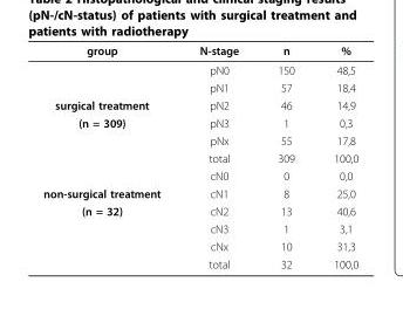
<table><thead><tr><td>group</td><td>N-stage</td><td>n</td><td>%</td></tr></thead><tbody><tr><td></td><td>pN0</td><td>150</td><td>48,5</td></tr><tr><td></td><td>pN1</td><td>57</td><td>18,4</td></tr><tr><td>surgical treatment</td><td>pN2</td><td>46</td><td>14,9</td></tr><tr><td rowspan="4">(n = 309)</td><td>pN3</td><td>1</td><td>0,3</td></tr><tr><td>pNx</td><td>55</td><td>17,8</td></tr><tr><td>total</td><td>309</td><td>100,0</td></tr><tr><td>cN0</td><td>0</td><td>0,0</td></tr><tr><td>non-surgical treatment</td><td>cN1</td><td>8</td><td>25,0</td></tr><tr><td rowspan="4">(n = 32)</td><td>cN2</td><td>13</td><td>40,6</td></tr><tr><td>cN3</td><td>1</td><td>3,1</td></tr><tr><td>cNx</td><td>10</td><td>31,3</td></tr><tr><td>total</td><td>32</td><td>100,0</td></tr></tbody></table>